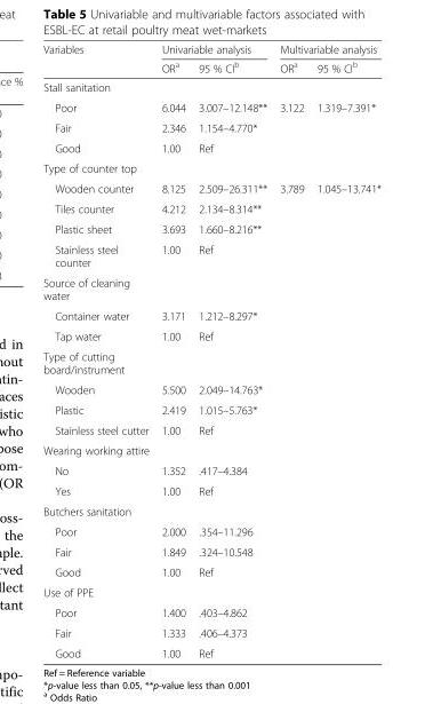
<table><thead><tr><td rowspan="2">Variables</td><td colspan="2">Univariable analysis</td><td colspan="2">Multivariable analysis</td></tr><tr><td>OR<sup>a</sup></td><td>95 % CI<sup>b</sup></td><td>OR<sup>a</sup></td><td>95 % CI<sup>b</sup></td></tr></thead><tbody><tr><td colspan="5">Stall sanitation</td></tr><tr><td>Poor</td><td>6.044</td><td>3.007–12.148**</td><td rowspan="3">3.122</td><td rowspan="3">1.319–7.391*</td></tr><tr><td>Fair</td><td>2.346</td><td>1.154–4.770*</td></tr><tr><td>Good</td><td>1.00</td><td>Ref</td></tr><tr><td colspan="5">Type of counter top</td></tr><tr><td>Wooden counter</td><td>8.125</td><td>2.509–26.311**</td><td rowspan="4">3.789</td><td rowspan="4">1.045–13.741*</td></tr><tr><td>Tiles counter</td><td>4.212</td><td>2.134–8.314**</td></tr><tr><td>Plastic sheet</td><td>3.693</td><td>1.660–8.216**</td></tr><tr><td>Stainless steel counter</td><td>1.00</td><td>Ref</td></tr><tr><td colspan="5">Source of cleaning water</td></tr><tr><td>Container water</td><td>3.171</td><td>1.212–8.297*</td><td rowspan="2"></td><td rowspan="2"></td></tr><tr><td>Tap water</td><td>1.00</td><td>Ref</td></tr><tr><td colspan="5">Type of cutting board/instrument</td></tr><tr><td>Wooden</td><td>5.500</td><td>2.049–14.763*</td><td rowspan="3"></td><td rowspan="3"></td></tr><tr><td>Plastic</td><td>2.419</td><td>1.015–5.763*</td></tr><tr><td>Stainless steel cutter</td><td>1.00</td><td>Ref</td></tr><tr><td colspan="5">Wearing working attire</td></tr><tr><td>No</td><td>1.352</td><td>.417–4.384</td><td rowspan="2"></td><td rowspan="2"></td></tr><tr><td>Yes</td><td>1.00</td><td>Ref</td></tr><tr><td colspan="5">Butchers sanitation</td></tr><tr><td>Poor</td><td>2.000</td><td>.354–11.296</td><td rowspan="3"></td><td rowspan="3"></td></tr><tr><td>Fair</td><td>1.849</td><td>.324–10.548</td></tr><tr><td>Good</td><td>1.00</td><td>Ref</td></tr><tr><td colspan="5">Use of PPE</td></tr><tr><td>Poor</td><td>1.400</td><td>.403–4.862</td><td rowspan="3"></td><td rowspan="3"></td></tr><tr><td>Fair</td><td>1.333</td><td>.406–4.373</td></tr><tr><td>Good</td><td>1.00</td><td>Ref</td></tr></tbody></table>